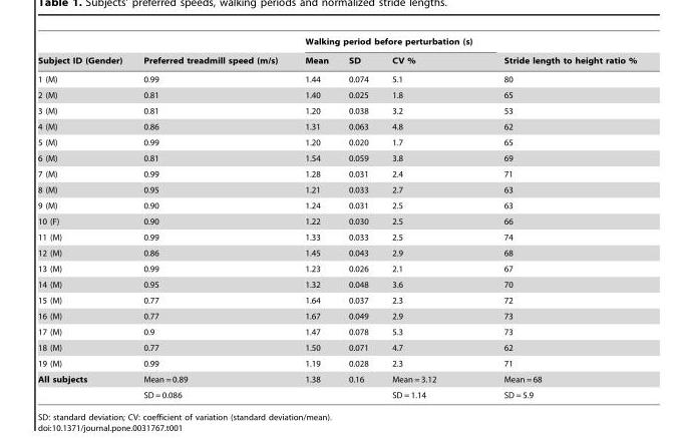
<table><thead><tr><td rowspan="2">Subject ID (Gender)</td><td rowspan="2">Preferred treadmill speed (m/s)</td><td colspan="3">Walking period before perturbation (s)</td><td rowspan="2">Stride length to height ratio %</td></tr><tr><td>Mean</td><td>SD</td><td>CV %</td></tr></thead><tbody><tr><td>1 (M)</td><td>0.99</td><td>1.44</td><td>0.074</td><td>5.1</td><td>80</td></tr><tr><td>2 (M)</td><td>0.81</td><td>1.40</td><td>0.025</td><td>1.8</td><td>65</td></tr><tr><td>3 (M)</td><td>0.81</td><td>1.20</td><td>0.038</td><td>3.2</td><td>53</td></tr><tr><td>4 (M)</td><td>0.86</td><td>1.31</td><td>0.063</td><td>4.8</td><td>62</td></tr><tr><td>5 (M)</td><td>0.99</td><td>1.20</td><td>0.020</td><td>1.7</td><td>65</td></tr><tr><td>6 (M)</td><td>0.81</td><td>1.54</td><td>0.059</td><td>3.8</td><td>69</td></tr><tr><td>7 (M)</td><td>0.99</td><td>1.28</td><td>0.031</td><td>2.4</td><td>71</td></tr><tr><td>8 (M)</td><td>0.95</td><td>1.21</td><td>0.033</td><td>2.7</td><td>63</td></tr><tr><td>9 (M)</td><td>0.90</td><td>1.24</td><td>0.031</td><td>2.5</td><td>63</td></tr><tr><td>10 (F)</td><td>0.90</td><td>1.22</td><td>0.030</td><td>2.5</td><td>66</td></tr><tr><td>11 (M)</td><td>0.99</td><td>1.33</td><td>0.033</td><td>2.5</td><td>74</td></tr><tr><td>12 (M)</td><td>0.86</td><td>1.45</td><td>0.043</td><td>2.9</td><td>68</td></tr><tr><td>13 (M)</td><td>0.99</td><td>1.23</td><td>0.026</td><td>2.1</td><td>67</td></tr><tr><td>14 (M)</td><td>0.95</td><td>1.32</td><td>0.048</td><td>3.6</td><td>70</td></tr><tr><td>15 (M)</td><td>0.77</td><td>1.64</td><td>0.037</td><td>2.3</td><td>72</td></tr><tr><td>16 (M)</td><td>0.77</td><td>1.67</td><td>0.049</td><td>2.9</td><td>73</td></tr><tr><td>17 (M)</td><td>0.9</td><td>1.47</td><td>0.078</td><td>5.3</td><td>73</td></tr><tr><td>18 (M)</td><td>0.77</td><td>1.50</td><td>0.071</td><td>4.7</td><td>62</td></tr><tr><td>19 (M)</td><td>0.99</td><td>1.19</td><td>0.028</td><td>2.3</td><td>71</td></tr><tr><td rowspan="2">All subjects</td><td>Mean = 0.89</td><td>1.38</td><td>0.16</td><td>Mean = 3.12</td><td>Mean = 68</td></tr><tr><td>SD = 0.086</td><td></td><td></td><td>SD = 1.14</td><td>SD = 5.9</td></tr></tbody></table>